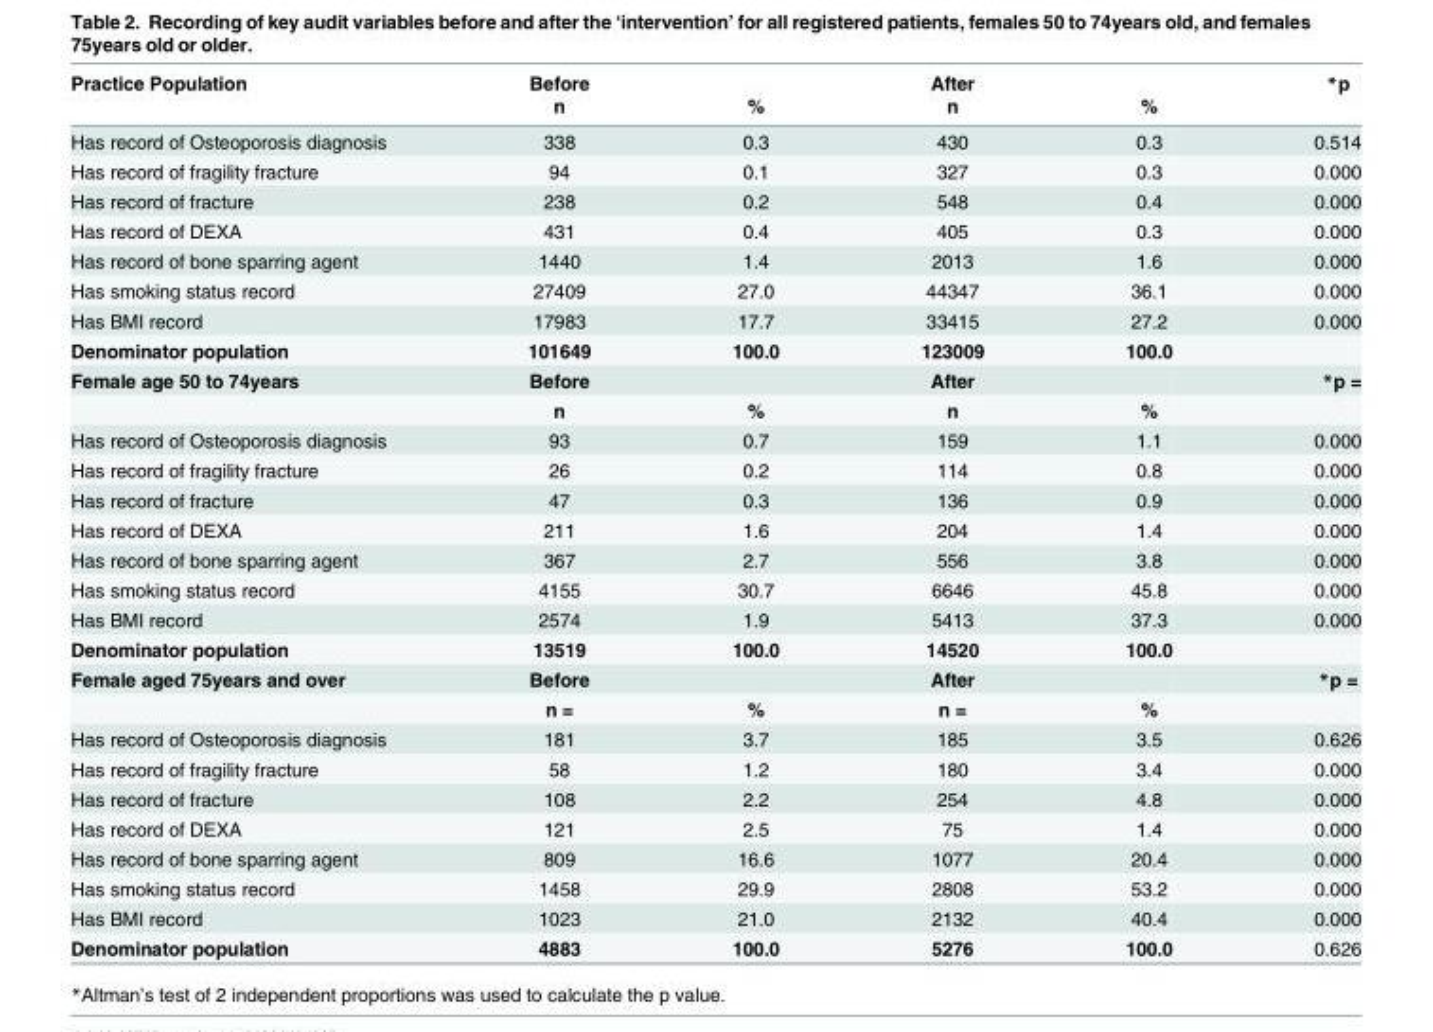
<table><thead><tr><td rowspan="2">Practice Population</td><td rowspan="2">Before n</td><td rowspan="2">%</td><td rowspan="2">After n</td><td rowspan="2">%</td><td rowspan="2">*p</td></tr><tr></tr></thead><tbody><tr><td>Has record of Osteoporosis diagnosis</td><td>338</td><td>0.3</td><td>430</td><td>0.3</td><td>0.514</td></tr><tr><td>Has record of fragility fracture</td><td>94</td><td>0.1</td><td>327</td><td>0.3</td><td>0.000</td></tr><tr><td>Has record of fracture</td><td>238</td><td>0.2</td><td>548</td><td>0.4</td><td>0.000</td></tr><tr><td>Has record of DEXA</td><td>431</td><td>0.4</td><td>405</td><td>0.3</td><td>0.000</td></tr><tr><td>Has record of bone sparring agent</td><td>1440</td><td>1.4</td><td>2013</td><td>1.6</td><td>0.000</td></tr><tr><td>Has smoking status record</td><td>27409</td><td>27.0</td><td>44347</td><td>36.1</td><td>0.000</td></tr><tr><td>Has BMI record</td><td>17983</td><td>17.7</td><td>33415</td><td>27.2</td><td>0.000</td></tr><tr><td>Denominator population</td><td>101649</td><td>100.0</td><td>123009</td><td>100.0</td><td></td></tr><tr><td rowspan="2">Female age 50 to 74years</td><td>Before</td><td></td><td>After</td><td></td><td>*p =</td></tr><tr><td>n</td><td>%</td><td>n</td><td>%</td><td></td></tr><tr><td>Has record of Osteoporosis diagnosis</td><td>93</td><td>0.7</td><td>159</td><td>1.1</td><td>0.000</td></tr><tr><td>Has record of fragility fracture</td><td>26</td><td>0.2</td><td>114</td><td>0.8</td><td>0.000</td></tr><tr><td>Has record of fracture</td><td>47</td><td>0.3</td><td>136</td><td>0.9</td><td>0.000</td></tr><tr><td>Has record of DEXA</td><td>211</td><td>1.6</td><td>204</td><td>1.4</td><td>0.000</td></tr><tr><td>Has record of bone sparring agent</td><td>367</td><td>2.7</td><td>556</td><td>3.8</td><td>0.000</td></tr><tr><td>Has smoking status record</td><td>4155</td><td>30.7</td><td>6646</td><td>45.8</td><td>0.000</td></tr><tr><td>Has BMI record</td><td>2574</td><td>1.9</td><td>5413</td><td>37.3</td><td>0.000</td></tr><tr><td>Denominator population</td><td>13519</td><td>100.0</td><td>14520</td><td>100.0</td><td></td></tr><tr><td rowspan="2">Female aged 75years and over</td><td>Before</td><td></td><td>After</td><td></td><td>*p =</td></tr><tr><td>n =</td><td>%</td><td>n =</td><td>%</td><td></td></tr><tr><td>Has record of Osteoporosis diagnosis</td><td>181</td><td>3.7</td><td>185</td><td>3.5</td><td>0.626</td></tr><tr><td>Has record of fragility fracture</td><td>58</td><td>1.2</td><td>180</td><td>3.4</td><td>0.000</td></tr><tr><td>Has record of fracture</td><td>108</td><td>2.2</td><td>254</td><td>4.8</td><td>0.000</td></tr><tr><td>Has record of DEXA</td><td>121</td><td>2.5</td><td>75</td><td>1.4</td><td>0.000</td></tr><tr><td>Has record of bone sparring agent</td><td>809</td><td>16.6</td><td>1077</td><td>20.4</td><td>0.000</td></tr><tr><td>Has smoking status record</td><td>1458</td><td>29.9</td><td>2808</td><td>53.2</td><td>0.000</td></tr><tr><td>Has BMI record</td><td>1023</td><td>21.0</td><td>2132</td><td>40.4</td><td>0.000</td></tr><tr><td>Denominator population</td><td>4883</td><td>100.0</td><td>5276</td><td>100.0</td><td>0.626</td></tr></tbody></table>